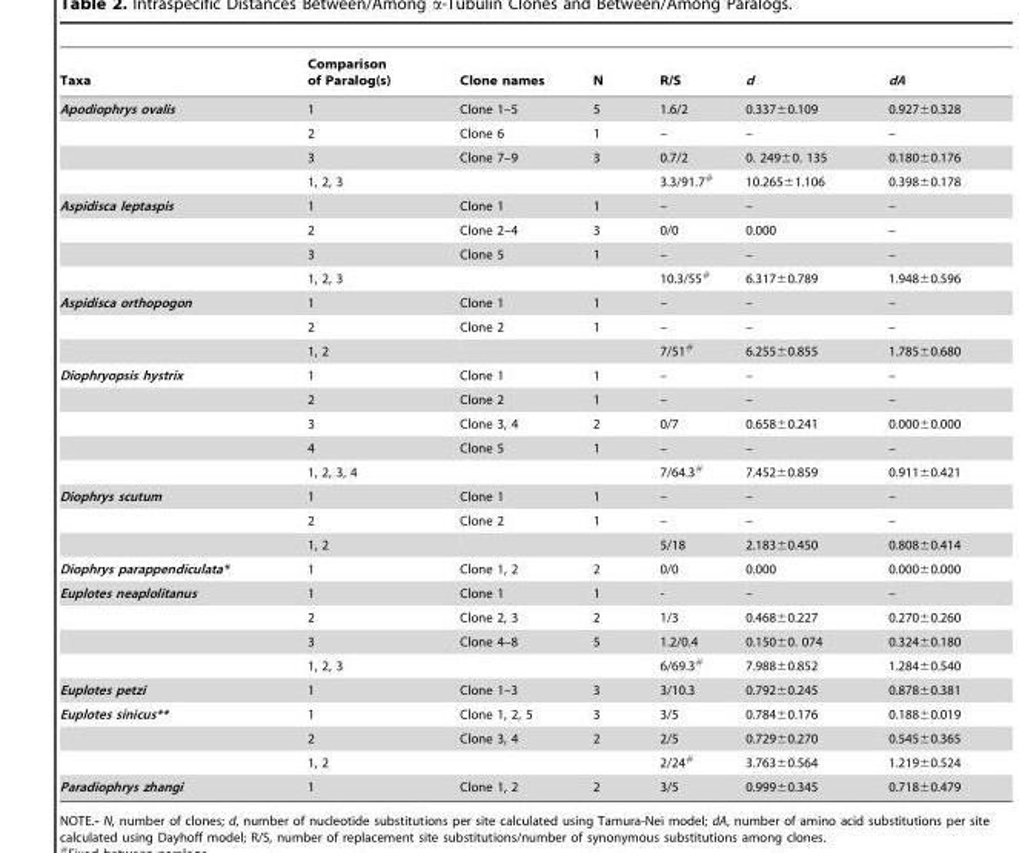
<table><thead><tr><td>Taxa</td><td>Comparison of Paralog(s)</td><td>Clone names</td><td>N</td><td>R/S</td><td>d</td><td>dA</td></tr></thead><tbody><tr><td rowspan="4">Apodiophrys ovalis</td><td>1</td><td>Clone 1–5</td><td>5</td><td>1.6/2</td><td>0.337±0.109</td><td>0.927±0.328</td></tr><tr><td>2</td><td>Clone 6</td><td>1</td><td>–</td><td>–</td><td>–</td></tr><tr><td>3</td><td>Clone 7–9</td><td>3</td><td>0.7/2</td><td>0. 249±0. 135</td><td>0.180±0.176</td></tr><tr><td>1, 2, 3</td><td></td><td></td><td>3.3/91.7#</td><td>10.265±1.106</td><td>0.398±0.178</td></tr><tr><td rowspan="4">Aspidisca leptaspis</td><td>1</td><td>Clone 1</td><td>1</td><td>–</td><td>–</td><td>–</td></tr><tr><td>2</td><td>Clone 2–4</td><td>3</td><td>0/0</td><td>0.000</td><td>–</td></tr><tr><td>3</td><td>Clone 5</td><td>1</td><td>–</td><td>–</td><td>–</td></tr><tr><td>1, 2, 3</td><td></td><td></td><td>10.3/55#</td><td>6.317±0.789</td><td>1.948±0.596</td></tr><tr><td rowspan="3">Aspidisca orthopogon</td><td>1</td><td>Clone 1</td><td>1</td><td>–</td><td>–</td><td>–</td></tr><tr><td>2</td><td>Clone 2</td><td>1</td><td>–</td><td>–</td><td>–</td></tr><tr><td>1, 2</td><td></td><td></td><td>7/51#</td><td>6.255±0.855</td><td>1.785±0.680</td></tr><tr><td rowspan="5">Diophryopsis hystrix</td><td>1</td><td>Clone 1</td><td>1</td><td>–</td><td>–</td><td>–</td></tr><tr><td>2</td><td>Clone 2</td><td>1</td><td>–</td><td>–</td><td>–</td></tr><tr><td>3</td><td>Clone 3, 4</td><td>2</td><td>0/7</td><td>0.658±0.241</td><td>0.000±0.000</td></tr><tr><td>4</td><td>Clone 5</td><td>1</td><td>–</td><td>–</td><td>–</td></tr><tr><td>1, 2, 3, 4</td><td></td><td></td><td>7/64.3#</td><td>7.452±0.859</td><td>0.911±0.421</td></tr><tr><td rowspan="3">Diophrys scutum</td><td>1</td><td>Clone 1</td><td>1</td><td>–</td><td>–</td><td>–</td></tr><tr><td>2</td><td>Clone 2</td><td>1</td><td>–</td><td>–</td><td>–</td></tr><tr><td>1, 2</td><td></td><td></td><td>5/18</td><td>2.183±0.450</td><td>0.808±0.414</td></tr><tr><td>Diophrys parappendiculata*</td><td>1</td><td>Clone 1, 2</td><td>2</td><td>0/0</td><td>0.000</td><td>0.000±0.000</td></tr><tr><td rowspan="4">Euplotes neaplolitanus</td><td>1</td><td>Clone 1</td><td>1</td><td>-</td><td>–</td><td>–</td></tr><tr><td>2</td><td>Clone 2, 3</td><td>2</td><td>1/3</td><td>0.468±0.227</td><td>0.270±0.260</td></tr><tr><td>3</td><td>Clone 4–8</td><td>5</td><td>1.2/0.4</td><td>0.150±0. 074</td><td>0.324±0.180</td></tr><tr><td>1, 2, 3</td><td></td><td></td><td>6/69.3#</td><td>7.988±0.852</td><td>1.284±0.540</td></tr><tr><td>Euplotes petzi</td><td>1</td><td>Clone 1–3</td><td>3</td><td>3/10.3</td><td>0.792±0.245</td><td>0.878±0.381</td></tr><tr><td rowspan="3">Euplotes sinicus**</td><td>1</td><td>Clone 1, 2, 5</td><td>3</td><td>3/5</td><td>0.784±0.176</td><td>0.188±0.019</td></tr><tr><td>2</td><td>Clone 3, 4</td><td>2</td><td>2/5</td><td>0.729±0.270</td><td>0.545±0.365</td></tr><tr><td>1, 2</td><td></td><td></td><td>2/24#</td><td>3.763±0.564</td><td>1.219±0.524</td></tr><tr><td>Paradiophrys zhangi</td><td>1</td><td>Clone 1, 2</td><td>2</td><td>3/5</td><td>0.999±0.345</td><td>0.718±0.479</td></tr></tbody></table>